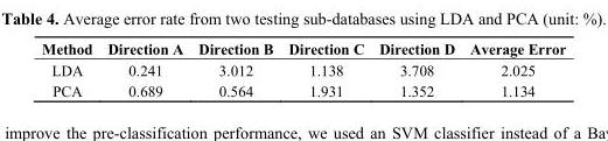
<table><thead><tr><td>Method</td><td>Direction A</td><td>Direction B</td><td>Direction C</td><td>Direction D</td><td>Average Error</td></tr></thead><tbody><tr><td>LDA</td><td>0.241</td><td>3.012</td><td>1.138</td><td>3.708</td><td>2.025</td></tr><tr><td>PCA</td><td>0.689</td><td>0.564</td><td>1.931</td><td>1.352</td><td>1.134</td></tr></tbody></table>